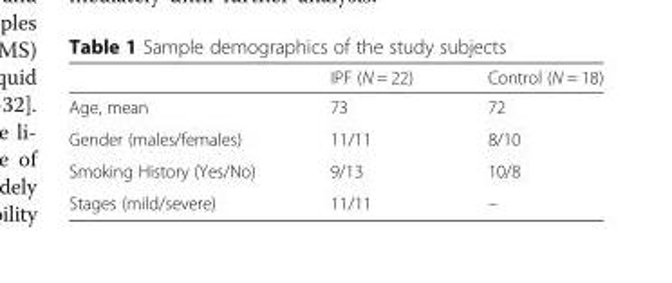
<table><thead><tr><td></td><td>IPF (N = 22)</td><td>Control (N = 18)</td></tr></thead><tbody><tr><td>Age, mean</td><td>73</td><td>72</td></tr><tr><td>Gender (males/females)</td><td>11/11</td><td>8/10</td></tr><tr><td>Smoking History (Yes/No)</td><td>9/13</td><td>10/8</td></tr><tr><td>Stages (mild/severe)</td><td>11/11</td><td>–</td></tr></tbody></table>